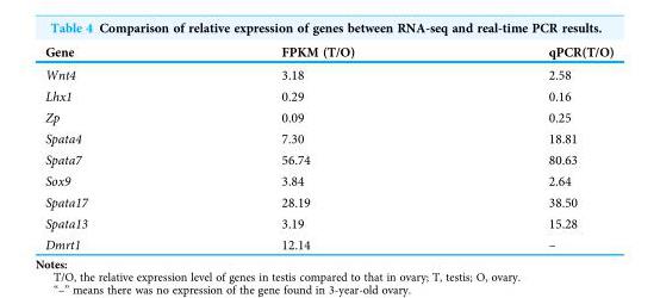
<table><thead><tr><td>Gene</td><td>FPKM (T/O)</td><td>qPCR(T/O)</td></tr></thead><tbody><tr><td>Wnt4</td><td>3.18</td><td>2.58</td></tr><tr><td>Lhx1</td><td>0.29</td><td>0.16</td></tr><tr><td>Zp</td><td>0.09</td><td>0.25</td></tr><tr><td>Spata4</td><td>7.30</td><td>18.81</td></tr><tr><td>Spata7</td><td>56.74</td><td>80.63</td></tr><tr><td>Sox9</td><td>3.84</td><td>2.64</td></tr><tr><td>Spata17</td><td>28.19</td><td>38.50</td></tr><tr><td>Spata13</td><td>3.19</td><td>15.28</td></tr><tr><td>Dmrt1</td><td>12.14</td><td>–</td></tr></tbody></table>